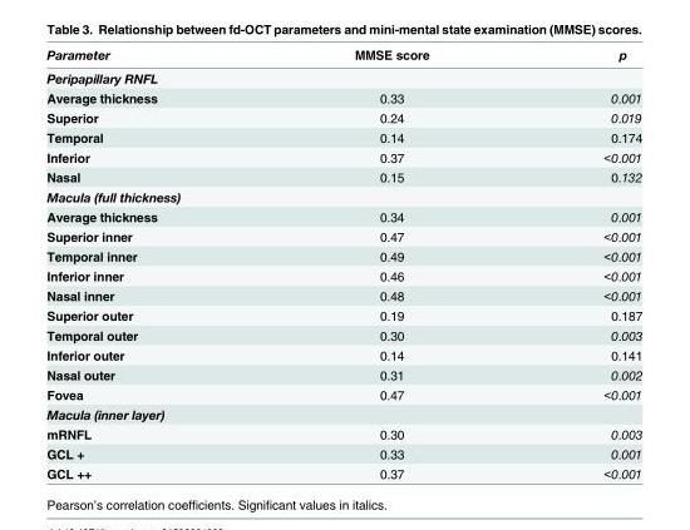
<table><thead><tr><td>Parameter</td><td>MMSE score</td><td>p</td></tr></thead><tbody><tr><td colspan="3">Peripapillary RNFL</td></tr><tr><td>Average thickness</td><td>0.33</td><td>0.001</td></tr><tr><td>Superior</td><td>0.24</td><td>0.019</td></tr><tr><td>Temporal</td><td>0.14</td><td>0.174</td></tr><tr><td>Inferior</td><td>0.37</td><td>&lt;0.001</td></tr><tr><td>Nasal</td><td>0.15</td><td>0.132</td></tr><tr><td colspan="3">Macula (full thickness)</td></tr><tr><td>Average thickness</td><td>0.34</td><td>0.001</td></tr><tr><td>Superior inner</td><td>0.47</td><td>&lt;0.001</td></tr><tr><td>Temporal inner</td><td>0.49</td><td>&lt;0.001</td></tr><tr><td>Inferior inner</td><td>0.46</td><td>&lt;0.001</td></tr><tr><td>Nasal inner</td><td>0.48</td><td>&lt;0.001</td></tr><tr><td>Superior outer</td><td>0.19</td><td>0.187</td></tr><tr><td>Temporal outer</td><td>0.30</td><td>0.003</td></tr><tr><td>Inferior outer</td><td>0.14</td><td>0.141</td></tr><tr><td>Nasal outer</td><td>0.31</td><td>0.002</td></tr><tr><td>Fovea</td><td>0.47</td><td>&lt;0.001</td></tr><tr><td colspan="3">Macula (inner layer)</td></tr><tr><td>mRNFL</td><td>0.30</td><td>0.003</td></tr><tr><td>GCL +</td><td>0.33</td><td>0.001</td></tr><tr><td>GCL ++</td><td>0.37</td><td>&lt;0.001</td></tr></tbody></table>